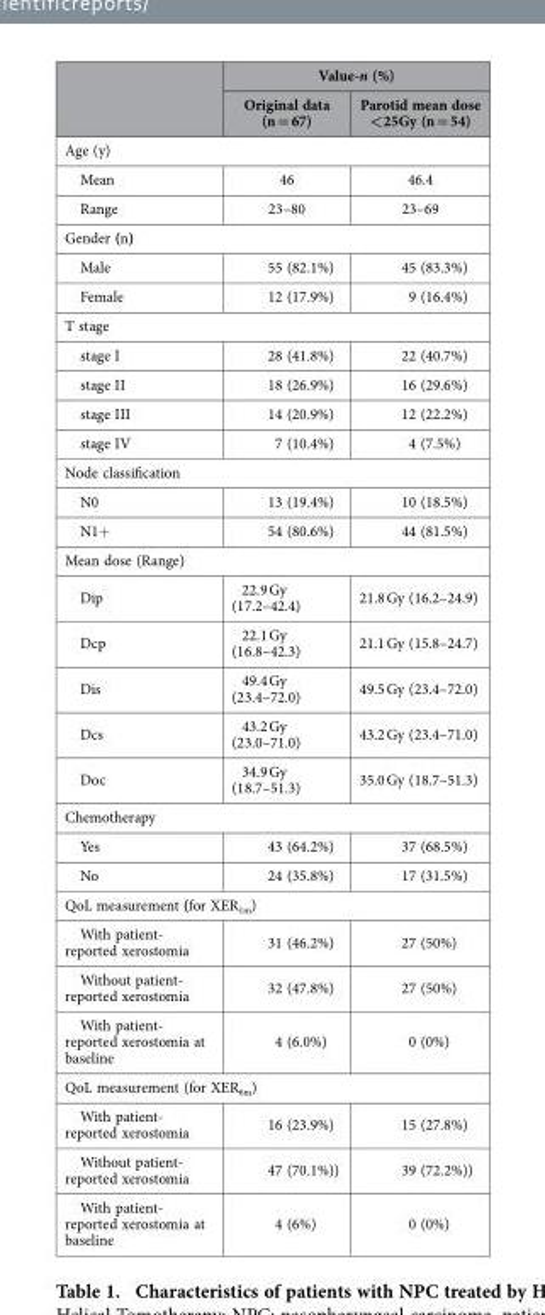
<table><thead><tr><td rowspan="2"></td><td colspan="2">Value-n (%)</td></tr><tr><td>Original data (n = 67)</td><td>Parotid mean dose &lt;25Gy (n = 54)</td></tr></thead><tbody><tr><td colspan="3">Age (y)</td></tr><tr><td>Mean</td><td>46</td><td>46.4</td></tr><tr><td>Range</td><td>23–80</td><td>23–69</td></tr><tr><td colspan="3">Gender (n)</td></tr><tr><td>Male</td><td>55 (82.1%)</td><td>45 (83.3%)</td></tr><tr><td>Female</td><td>12 (17.9%)</td><td>9 (16.4%)</td></tr><tr><td colspan="3">T stage</td></tr><tr><td>stage I</td><td>28 (41.8%)</td><td>22 (40.7%)</td></tr><tr><td>stage II</td><td>18 (26.9%)</td><td>16 (29.6%)</td></tr><tr><td>stage III</td><td>14 (20.9%)</td><td>12 (22.2%)</td></tr><tr><td>stage IV</td><td>7 (10.4%)</td><td>4 (7.5%)</td></tr><tr><td colspan="3">Node classification</td></tr><tr><td>N0</td><td>13 (19.4%)</td><td>10 (18.5%)</td></tr><tr><td>N1+</td><td>54 (80.6%)</td><td>44 (81.5%)</td></tr><tr><td colspan="3">Mean dose (Range)</td></tr><tr><td>Dip</td><td>22.9 Gy (17.2–42.4)</td><td>21.8 Gy (16.2–24.9)</td></tr><tr><td>Dcp</td><td>22.1 Gy (16.8–42.3)</td><td>21.1 Gy (15.8–24.7)</td></tr><tr><td>Dis</td><td>49.4 Gy (23.4–72.0)</td><td>49.5 Gy (23.4–72.0)</td></tr><tr><td>Dcs</td><td>43.2 Gy (23.0–71.0)</td><td>43.2 Gy (23.4–71.0)</td></tr><tr><td>Doc</td><td>34.9 Gy (18.7–51.3)</td><td>35.0 Gy (18.7–51.3)</td></tr><tr><td colspan="3">Chemotherapy</td></tr><tr><td>Yes</td><td>43 (64.2%)</td><td>37 (68.5%)</td></tr><tr><td>No</td><td>24 (35.8%)</td><td>17 (31.5%)</td></tr><tr><td colspan="3">QoL measurement (for XER<sub>1m</sub>)</td></tr><tr><td>With patient- reported xerostomia</td><td>31 (46.2%)</td><td>27 (50%)</td></tr><tr><td>Without patient- reported xerostomia</td><td>32 (47.8%)</td><td>27 (50%)</td></tr><tr><td>With patient- reported xerostomia at baseline</td><td>4 (6.0%)</td><td>0 (0%)</td></tr><tr><td colspan="3">QoL measurement (for XER<sub>6m</sub>)</td></tr><tr><td>With patient- reported xerostomia</td><td>16 (23.9%)</td><td>15 (27.8%)</td></tr><tr><td>Without patient- reported xerostomia</td><td>47 (70.1%))</td><td>39 (72.2%))</td></tr><tr><td>With patient- reported xerostomia at baseline</td><td>4 (6%)</td><td>0 (0%)</td></tr></tbody></table>